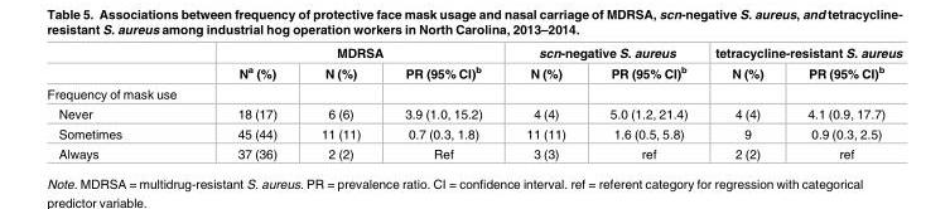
<table><thead><tr><td rowspan="2"></td><td colspan="3">MDRSA</td><td colspan="2">scn-negative S. aureus</td><td colspan="2">tetracycline-resistant S. aureus</td></tr><tr><td>N<sup>a</sup> (%)</td><td>N (%)</td><td>PR (95% CI)<sup>b</sup></td><td>N (%)</td><td>PR (95% CI)<sup>b</sup></td><td>N (%)</td><td>PR (95% CI)<sup>b</sup></td></tr></thead><tbody><tr><td colspan="8">Frequency of mask use</td></tr><tr><td>Never</td><td>18 (17)</td><td>6 (6)</td><td>3.9 (1.0, 15.2)</td><td>4 (4)</td><td>5.0 (1.2, 21.4)</td><td>4 (4)</td><td>4.1 (0.9, 17.7)</td></tr><tr><td>Sometimes</td><td>45 (44)</td><td>11 (11)</td><td>0.7 (0.3, 1.8)</td><td>11 (11)</td><td>1.6 (0.5, 5.8)</td><td>9</td><td>0.9 (0.3, 2.5)</td></tr><tr><td>Always</td><td>37 (36)</td><td>2 (2)</td><td>Ref</td><td>3 (3)</td><td>ref</td><td>2 (2)</td><td>ref</td></tr></tbody></table>